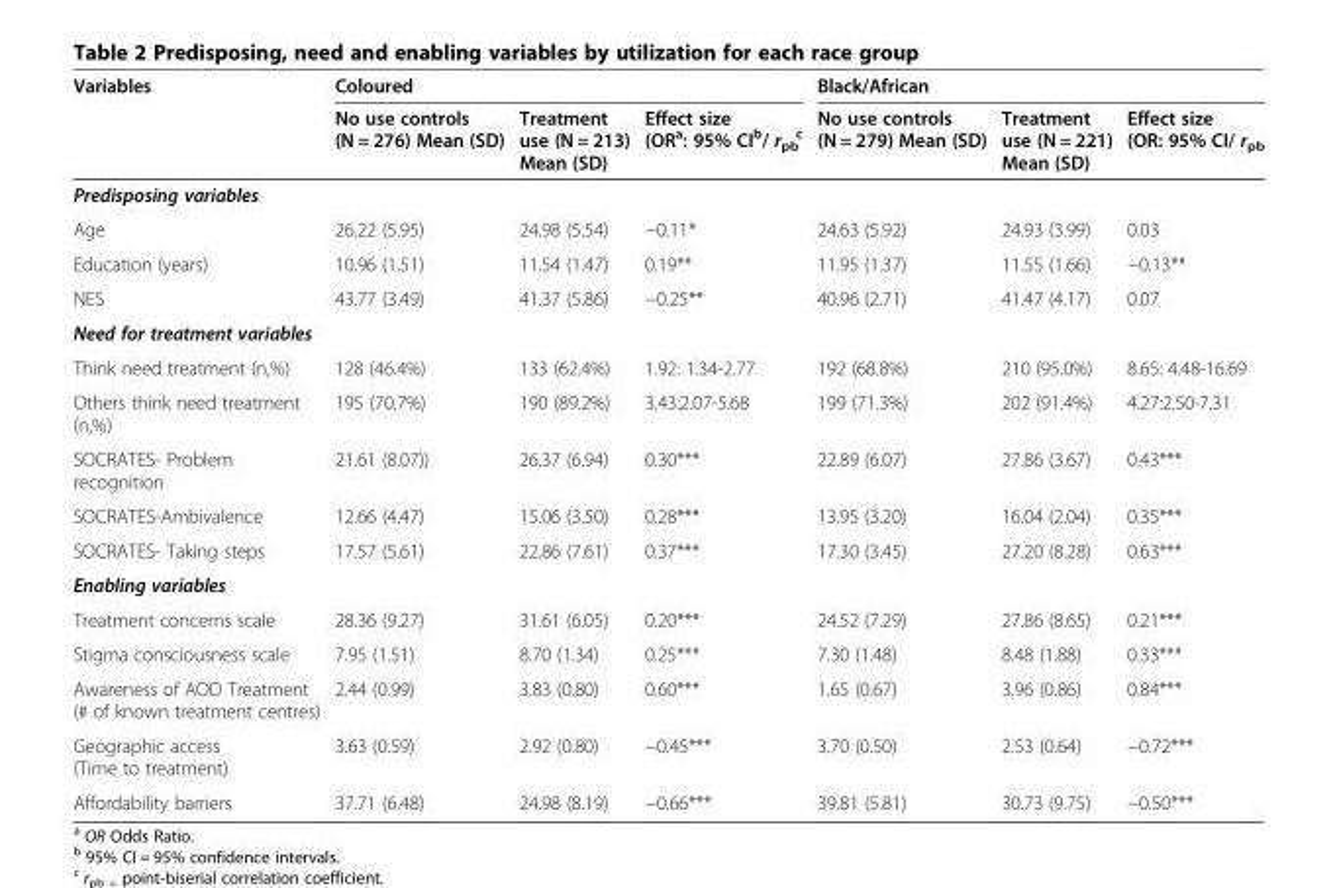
<table><thead><tr><td rowspan="2">Variables</td><td colspan="3">Coloured</td><td colspan="3">Black/African</td></tr><tr><td>No use controls (N = 276) Mean (SD)</td><td>Treatment use (N = 213) Mean (SD)</td><td>Effect size (OR<sup>a</sup>: 95% CI<sup>b</sup>/ r<sub>pb</sub> <sup>c</sup></td><td>No use controls (N = 279) Mean (SD)</td><td>Treatment use (N = 221) Mean (SD)</td><td>Effect size (OR: 95% CI/ r<sub>pb</sub></td></tr></thead><tbody><tr><td colspan="7">Predisposing variables</td></tr><tr><td>Age</td><td>26.22 (5.95)</td><td>24.98 (5.54)</td><td>−0.11*</td><td>24.63 (5.92)</td><td>24.93 (3.99)</td><td>0.03</td></tr><tr><td>Education (years)</td><td>10.96 (1.51)</td><td>11.54 (1.47)</td><td>0.19**</td><td>11.95 (1.37)</td><td>11.55 (1.66)</td><td>−0.13**</td></tr><tr><td>NES</td><td>43.77 (3.49)</td><td>41.37 (5.86)</td><td>−0.25**</td><td>40.96 (2.71)</td><td>41.47 (4.17)</td><td>0.07</td></tr><tr><td colspan="7">Need for treatment variables</td></tr><tr><td>Think need treatment (n,%)</td><td>128 (46.4%)</td><td>133 (62.4%)</td><td>1.92: 1.34-2.77</td><td>192 (68.8%)</td><td>210 (95.0%)</td><td>8.65: 4.48-16.69</td></tr><tr><td>Others think need treatment (n,%)</td><td>195 (70.7%)</td><td>190 (89.2%)</td><td>3.43:2.07-5.68</td><td>199 (71.3%)</td><td>202 (91.4%)</td><td>4.27:2.50-7.31</td></tr><tr><td>SOCRATES- Problem recognition</td><td>21.61 (8.07))</td><td>26.37 (6.94)</td><td>0.30***</td><td>22.89 (6.07)</td><td>27.86 (3.67)</td><td>0.43***</td></tr><tr><td>SOCRATES-Ambivalence</td><td>12.66 (4.47)</td><td>15.06 (3.50)</td><td>0.28***</td><td>13.95 (3.20)</td><td>16.04 (2.04)</td><td>0.35***</td></tr><tr><td>SOCRATES- Taking steps</td><td>17.57 (5.61)</td><td>22.86 (7.61)</td><td>0.37***</td><td>17.30 (3.45)</td><td>27.20 (8.28)</td><td>0.63***</td></tr><tr><td colspan="7">Enabling variables</td></tr><tr><td>Treatment concerns scale</td><td>28.36 (9.27)</td><td>31.61 (6.05)</td><td>0.20***</td><td>24.52 (7.29)</td><td>27.86 (8.65)</td><td>0.21***</td></tr><tr><td>Stigma consciousness scale</td><td>7.95 (1.51)</td><td>8.70 (1.34)</td><td>0.25***</td><td>7.30 (1.48)</td><td>8.48 (1.88)</td><td>0.33***</td></tr><tr><td>Awareness of AOD Treatment (# of known treatment centres)</td><td>2.44 (0.99)</td><td>3.83 (0.80)</td><td>0.60***</td><td>1.65 (0.67)</td><td>3.96 (0.86)</td><td>0.84***</td></tr><tr><td>Geographic access (Time to treatment)</td><td>3.63 (0.59)</td><td>2.92 (0.80)</td><td>−0.45***</td><td>3.70 (0.50)</td><td>2.53 (0.64)</td><td>−0.72***</td></tr><tr><td>Affordability barriers</td><td>37.71 (6.48)</td><td>24.98 (8.19)</td><td>−0.66***</td><td>39.81 (5.81)</td><td>30.73 (9.75)</td><td>−0.50***</td></tr></tbody></table>